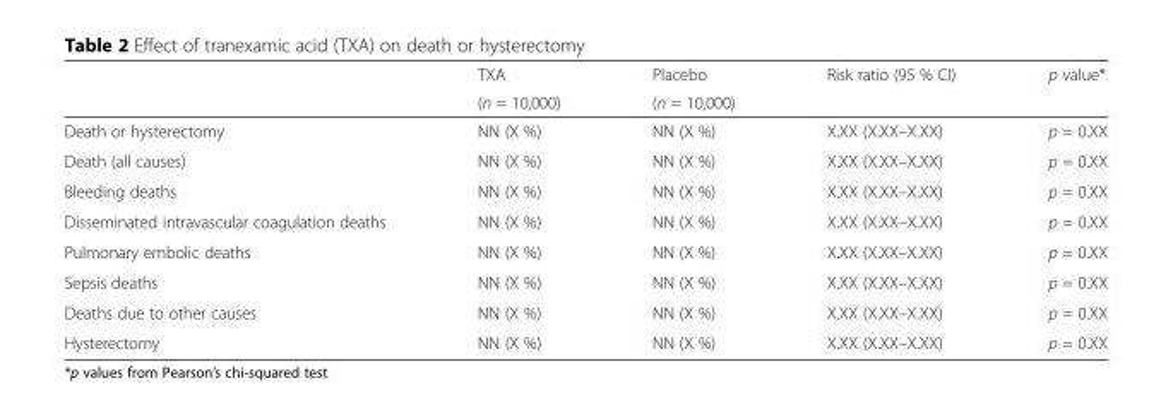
<table><thead><tr><td rowspan="2"></td><td rowspan="2">TXA (n = 10,000)</td><td rowspan="2">Placebo (n = 10,000)</td><td rowspan="2">Risk ratio (95 % CI)</td><td rowspan="2">p value*</td></tr><tr></tr></thead><tbody><tr><td>Death or hysterectomy</td><td>NN (X %)</td><td>NN (X %)</td><td>X.XX (X.XX–X.XX)</td><td>p = 0.XX</td></tr><tr><td>Death (all causes)</td><td>NN (X %)</td><td>NN (X %)</td><td>X.XX (X.XX–X.XX)</td><td>p = 0.XX</td></tr><tr><td>Bleeding deaths</td><td>NN (X %)</td><td>NN (X %)</td><td>X.XX (X.XX–X.XX)</td><td>p = 0.XX</td></tr><tr><td>Disseminated intravascular coagulation deaths</td><td>NN (X %)</td><td>NN (X %)</td><td>X.XX (X.XX–X.XX)</td><td>p = 0.XX</td></tr><tr><td>Pulmonary embolic deaths</td><td>NN (X %)</td><td>NN (X %)</td><td>X.XX (X.XX–X.XX)</td><td>p = 0.XX</td></tr><tr><td>Sepsis deaths</td><td>NN (X %)</td><td>NN (X %)</td><td>X.XX (X.XX–X.XX)</td><td>p = 0.XX</td></tr><tr><td>Deaths due to other causes</td><td>NN (X %)</td><td>NN (X %)</td><td>X.XX (X.XX–X.XX)</td><td>p = 0.XX</td></tr><tr><td>Hysterectomy</td><td>NN (X %)</td><td>NN (X %)</td><td>X.XX (X.XX–X.XX)</td><td>p = 0.XX</td></tr></tbody></table>